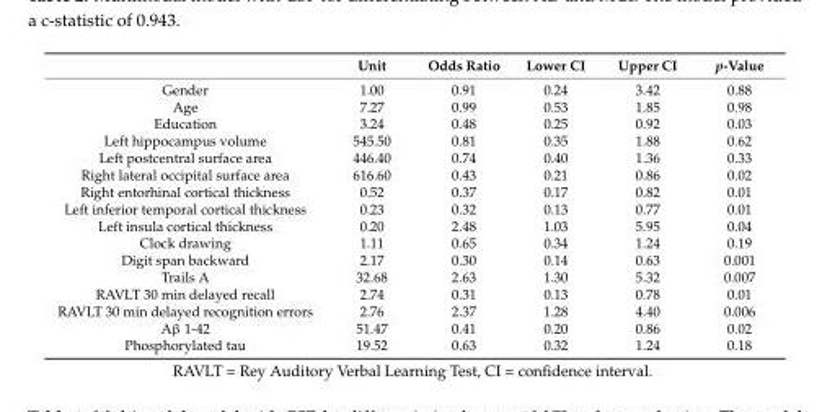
<table><thead><tr><td></td><td>Unit</td><td>Odds Ratio</td><td>Lower CI</td><td>Upper CI</td><td>p-Value</td></tr></thead><tbody><tr><td>Gender</td><td>1.00</td><td>0.91</td><td>0.24</td><td>3.42</td><td>0.88</td></tr><tr><td>Age</td><td>7.27</td><td>0.99</td><td>0.53</td><td>1.85</td><td>0.98</td></tr><tr><td>Education</td><td>3.24</td><td>0.48</td><td>0.25</td><td>0.92</td><td>0.03</td></tr><tr><td>Left hippocampus volume</td><td>545.50</td><td>0.81</td><td>0.35</td><td>1.88</td><td>0.62</td></tr><tr><td>Left postcentral surface area</td><td>446.40</td><td>0.74</td><td>0.40</td><td>1.36</td><td>0.33</td></tr><tr><td>Right lateral occipital surface area</td><td>616.60</td><td>0.43</td><td>0.21</td><td>0.86</td><td>0.02</td></tr><tr><td>Right entorhinal cortical thickness</td><td>0.52</td><td>0.37</td><td>0.17</td><td>0.82</td><td>0.01</td></tr><tr><td>Left inferior temporal cortical thickness</td><td>0.23</td><td>0.32</td><td>0.13</td><td>0.77</td><td>0.01</td></tr><tr><td>Left insula cortical thickness</td><td>0.20</td><td>2.48</td><td>1.03</td><td>5.95</td><td>0.04</td></tr><tr><td>Clock drawing</td><td>1.11</td><td>0.65</td><td>0.34</td><td>1.24</td><td>0.19</td></tr><tr><td>Digit span backward</td><td>2.17</td><td>0.30</td><td>0.14</td><td>0.63</td><td>0.001</td></tr><tr><td>Trails A</td><td>32.68</td><td>2.63</td><td>1.30</td><td>5.32</td><td>0.007</td></tr><tr><td>RAVLT 30 min delayed recall</td><td>2.74</td><td>0.31</td><td>0.13</td><td>0.78</td><td>0.01</td></tr><tr><td>RAVLT 30 min delayed recognition errors</td><td>2.76</td><td>2.37</td><td>1.28</td><td>4.40</td><td>0.006</td></tr><tr><td>Aβ 1-42</td><td>51.47</td><td>0.41</td><td>0.20</td><td>0.86</td><td>0.02</td></tr><tr><td>Phosphorylated tau</td><td>19.52</td><td>0.63</td><td>0.32</td><td>1.24</td><td>0.18</td></tr></tbody></table>